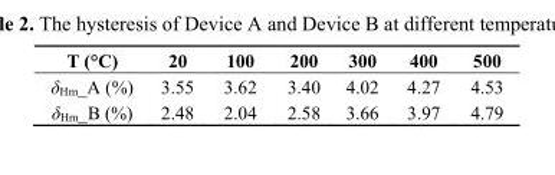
<table><thead><tr><td>T (°C)</td><td>20</td><td>100</td><td>200</td><td>300</td><td>400</td><td>500</td></tr></thead><tbody><tr><td>δHm_A (%)</td><td>3.55</td><td>3.62</td><td>3.40</td><td>4.02</td><td>4.27</td><td>4.53</td></tr><tr><td>δHm_B (%)</td><td>2.48</td><td>2.04</td><td>2.58</td><td>3.66</td><td>3.97</td><td>4.79</td></tr></tbody></table>